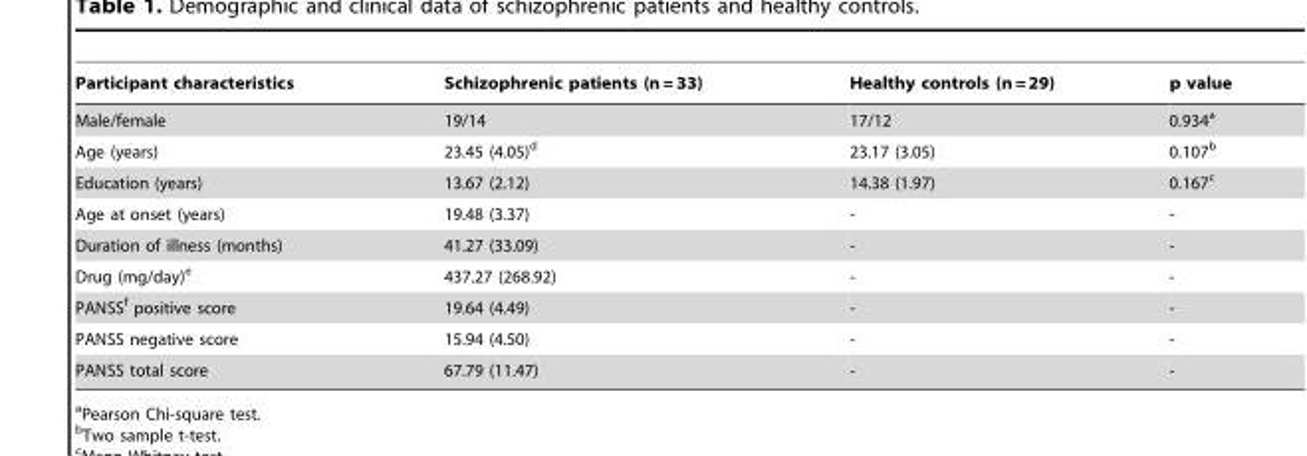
<table><thead><tr><td>Participant characteristics</td><td>Schizophrenic patients (n = 33)</td><td>Healthy controls (n = 29)</td><td>p value</td></tr></thead><tbody><tr><td>Male/female</td><td>19/14</td><td>17/12</td><td>0.934<sup>a</sup></td></tr><tr><td>Age (years)</td><td>23.45 (4.05)<sup>d</sup></td><td>23.17 (3.05)</td><td>0.107<sup>b</sup></td></tr><tr><td>Education (years)</td><td>13.67 (2.12)</td><td>14.38 (1.97)</td><td>0.167<sup>c</sup></td></tr><tr><td>Age at onset (years)</td><td>19.48 (3.37)</td><td>-</td><td>-</td></tr><tr><td>Duration of illness (months)</td><td>41.27 (33.09)</td><td>-</td><td>-</td></tr><tr><td>Drug (mg/day)<sup>e</sup></td><td>437.27 (268.92)</td><td>-</td><td>-</td></tr><tr><td>PANSS<sup>f</sup> positive score</td><td>19.64 (4.49)</td><td>-</td><td>-</td></tr><tr><td>PANSS negative score</td><td>15.94 (4.50)</td><td>-</td><td>-</td></tr><tr><td>PANSS total score</td><td>67.79 (11.47)</td><td>-</td><td>-</td></tr></tbody></table>